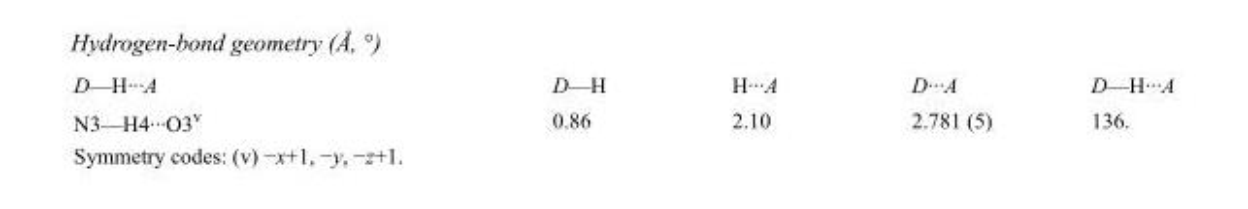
<table><tbody><tr><td>D—H···A</td><td>D—H</td><td>H···A</td><td>D···A</td><td>D—H···A</td></tr><tr><td>N3—H4···O3<sup>v</sup></td><td>0.86</td><td>2.10</td><td>2.781 (5)</td><td>136.</td></tr></tbody></table>